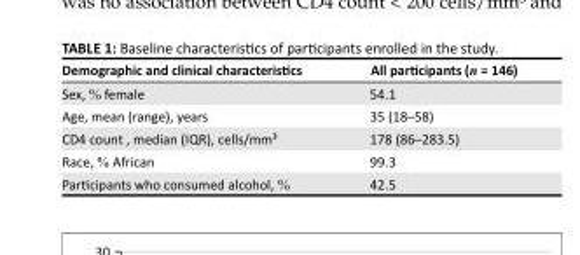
<table><thead><tr><td>Demographic and clinical characteristics</td><td>All participants (n = 146)</td></tr></thead><tbody><tr><td>Sex, % female</td><td>54.1</td></tr><tr><td>Age, mean (range), years</td><td>35 (18–58)</td></tr><tr><td>CD4 count , median (IQR), cells/mm³</td><td>178 (86–283.5)</td></tr><tr><td>Race, % African</td><td>99.3</td></tr><tr><td>Participants who consumed alcohol, %</td><td>42.5</td></tr></tbody></table>